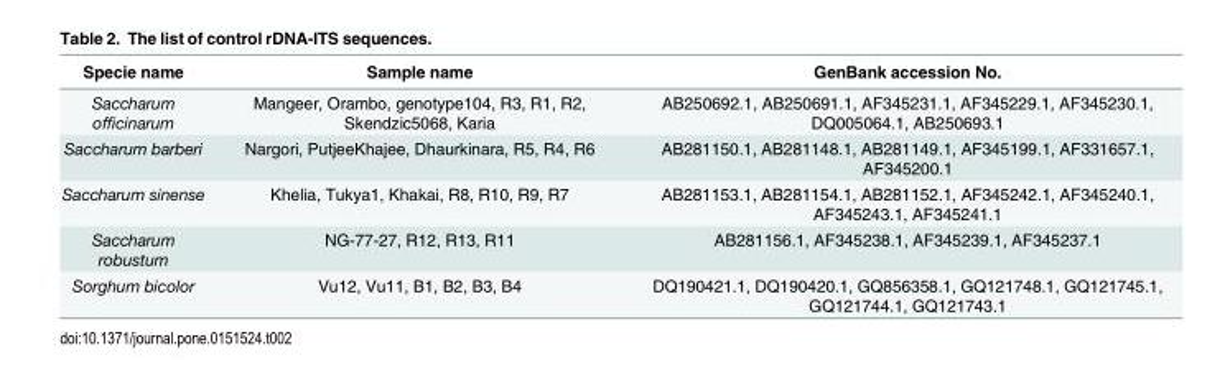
<table><thead><tr><td>Specie name</td><td>Sample name</td><td>GenBank accession No.</td></tr></thead><tbody><tr><td>Saccharum officinarum</td><td>Mangeer, Orambo, genotype104, R3, R1, R2, Skendzic5068, Karia</td><td>AB250692.1, AB250691.1, AF345231.1, AF345229.1, AF345230.1, DQ005064.1, AB250693.1</td></tr><tr><td>Saccharum barberi</td><td>Nargori, PutjeeKhajee, Dhaurkinara, R5, R4, R6</td><td>AB281150.1, AB281148.1, AB281149.1, AF345199.1, AF331657.1, AF345200.1</td></tr><tr><td>Saccharum sinense</td><td>Khelia, Tukya1, Khakai, R8, R10, R9, R7</td><td>AB281153.1, AB281154.1, AB281152.1, AF345242.1, AF345240.1, AF345243.1, AF345241.1</td></tr><tr><td>Saccharum robustum</td><td>NG-77-27, R12, R13, R11</td><td>AB281156.1, AF345238.1, AF345239.1, AF345237.1</td></tr><tr><td>Sorghum bicolor</td><td>Vu12, Vu11, B1, B2, B3, B4</td><td>DQ190421.1, DQ190420.1, GQ856358.1, GQ121748.1, GQ121745.1, GQ121744.1, GQ121743.1</td></tr></tbody></table>